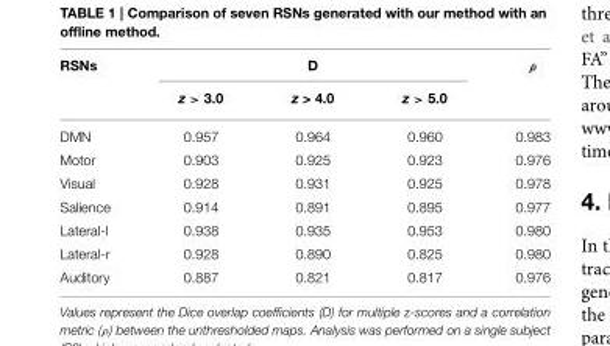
<table><thead><tr><td rowspan="2">RSNs</td><td colspan="3">D</td><td rowspan="2">ρ</td></tr><tr><td>z &gt; 3.0</td><td>z &gt; 4.0</td><td>z &gt; 5.0</td></tr></thead><tbody><tr><td>DMN</td><td>0.957</td><td>0.964</td><td>0.960</td><td>0.983</td></tr><tr><td>Motor</td><td>0.903</td><td>0.925</td><td>0.923</td><td>0.976</td></tr><tr><td>Visual</td><td>0.928</td><td>0.931</td><td>0.925</td><td>0.978</td></tr><tr><td>Salience</td><td>0.914</td><td>0.891</td><td>0.895</td><td>0.977</td></tr><tr><td>Lateral-l</td><td>0.938</td><td>0.935</td><td>0.953</td><td>0.980</td></tr><tr><td>Lateral-r</td><td>0.928</td><td>0.890</td><td>0.825</td><td>0.980</td></tr><tr><td>Auditory</td><td>0.887</td><td>0.821</td><td>0.817</td><td>0.976</td></tr></tbody></table>